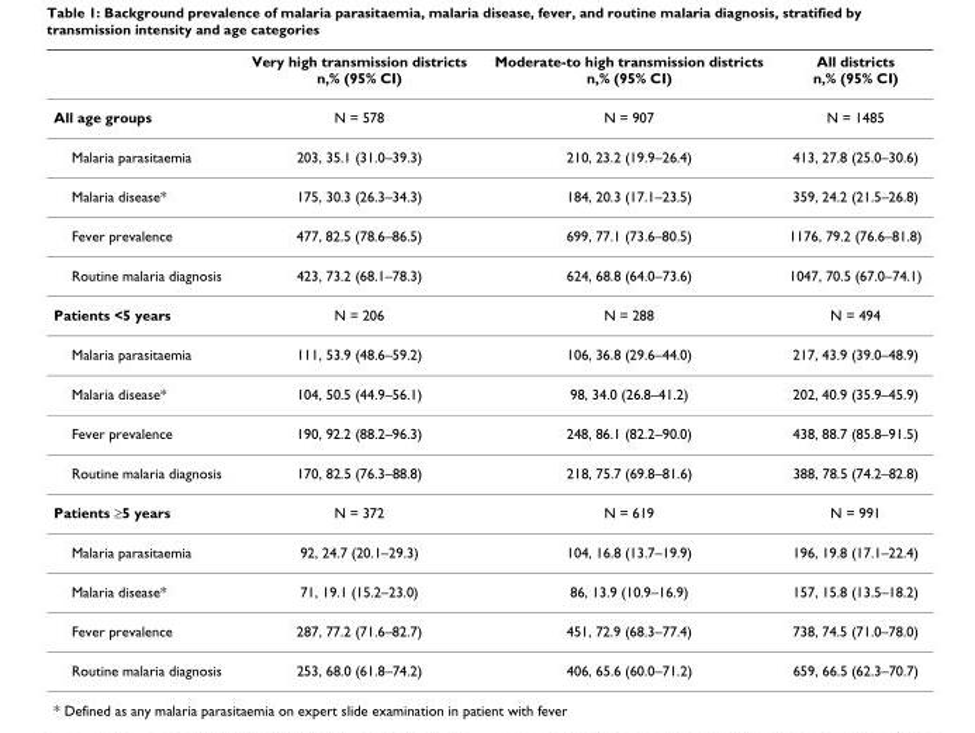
<table><thead><tr><td></td><td>Very high transmission districts n,% (95% CI)</td><td>Moderate-to high transmission districts n,% (95% CI)</td><td>All districts n,% (95% CI)</td></tr></thead><tbody><tr><td>All age groups</td><td>N = 578</td><td>N = 907</td><td>N = 1485</td></tr><tr><td>Malaria parasitaemia</td><td>203, 35.1 (31.0–39.3)</td><td>210, 23.2 (19.9–26.4)</td><td>413, 27.8 (25.0–30.6)</td></tr><tr><td>Malaria disease*</td><td>175, 30.3 (26.3–34.3)</td><td>184, 20.3 (17.1–23.5)</td><td>359, 24.2 (21.5–26.8)</td></tr><tr><td>Fever prevalence</td><td>477, 82.5 (78.6–86.5)</td><td>699, 77.1 (73.6–80.5)</td><td>1176, 79.2 (76.6–81.8)</td></tr><tr><td>Routine malaria diagnosis</td><td>423, 73.2 (68.1–78.3)</td><td>624, 68.8 (64.0–73.6)</td><td>1047, 70.5 (67.0–74.1)</td></tr><tr><td>Patients &lt;5 years</td><td>N = 206</td><td>N = 288</td><td>N = 494</td></tr><tr><td>Malaria parasitaemia</td><td>111, 53.9 (48.6–59.2)</td><td>106, 36.8 (29.6–44.0)</td><td>217, 43.9 (39.0–48.9)</td></tr><tr><td>Malaria disease*</td><td>104, 50.5 (44.9–56.1)</td><td>98, 34.0 (26.8–41.2)</td><td>202, 40.9 (35.9–45.9)</td></tr><tr><td>Fever prevalence</td><td>190, 92.2 (88.2–96.3)</td><td>248, 86.1 (82.2–90.0)</td><td>438, 88.7 (85.8–91.5)</td></tr><tr><td>Routine malaria diagnosis</td><td>170, 82.5 (76.3–88.8)</td><td>218, 75.7 (69.8–81.6)</td><td>388, 78.5 (74.2–82.8)</td></tr><tr><td>Patients ≥5 years</td><td>N = 372</td><td>N = 619</td><td>N = 991</td></tr><tr><td>Malaria parasitaemia</td><td>92, 24.7 (20.1–29.3)</td><td>104, 16.8 (13.7–19.9)</td><td>196, 19.8 (17.1–22.4)</td></tr><tr><td>Malaria disease*</td><td>71, 19.1 (15.2–23.0)</td><td>86, 13.9 (10.9–16.9)</td><td>157, 15.8 (13.5–18.2)</td></tr><tr><td>Fever prevalence</td><td>287, 77.2 (71.6–82.7)</td><td>451, 72.9 (68.3–77.4)</td><td>738, 74.5 (71.0–78.0)</td></tr><tr><td>Routine malaria diagnosis</td><td>253, 68.0 (61.8–74.2)</td><td>406, 65.6 (60.0–71.2)</td><td>659, 66.5 (62.3–70.7)</td></tr></tbody></table>